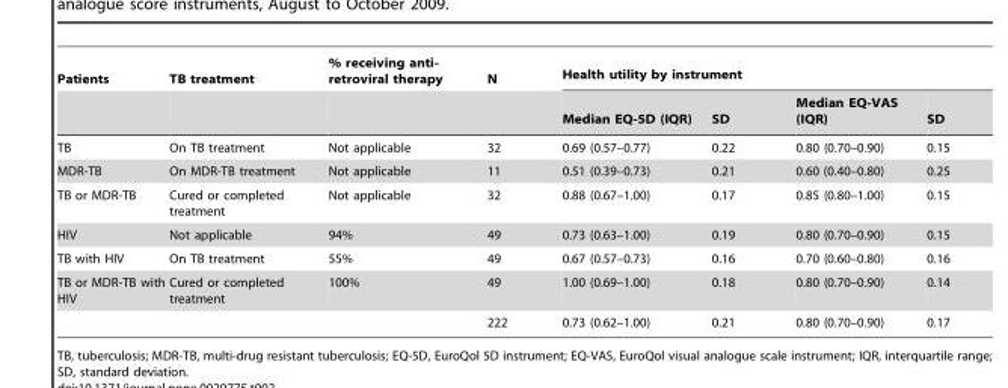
<table><thead><tr><td rowspan="2">Patients</td><td rowspan="2">TB treatment</td><td rowspan="2">% receiving anti- retroviral therapy</td><td rowspan="2">N</td><td colspan="4">Health utility by instrument</td></tr><tr><td>Median EQ-5D (IQR)</td><td>SD</td><td>Median EQ-VAS (IQR)</td><td>SD</td></tr></thead><tbody><tr><td>TB</td><td>On TB treatment</td><td>Not applicable</td><td>32</td><td>0.69 (0.57–0.77)</td><td>0.22</td><td>0.80 (0.70–0.90)</td><td>0.15</td></tr><tr><td>MDR-TB</td><td>On MDR-TB treatment</td><td>Not applicable</td><td>11</td><td>0.51 (0.39–0.73)</td><td>0.21</td><td>0.60 (0.40–0.80)</td><td>0.25</td></tr><tr><td>TB or MDR-TB</td><td>Cured or completed treatment</td><td>Not applicable</td><td>32</td><td>0.88 (0.67–1.00)</td><td>0.17</td><td>0.85 (0.80–1.00)</td><td>0.15</td></tr><tr><td>HIV</td><td>Not applicable</td><td>94%</td><td>49</td><td>0.73 (0.63–1.00)</td><td>0.19</td><td>0.80 (0.70–0.90)</td><td>0.15</td></tr><tr><td>TB with HIV</td><td>On TB treatment</td><td>55%</td><td>49</td><td>0.67 (0.57–0.73)</td><td>0.16</td><td>0.70 (0.60–0.80)</td><td>0.16</td></tr><tr><td rowspan="2">TB or MDR-TB with HIV</td><td>Cured or completed treatment</td><td>100%</td><td>49</td><td>1.00 (0.69–1.00)</td><td>0.18</td><td>0.80 (0.70–0.90)</td><td>0.14</td></tr><tr><td></td><td></td><td>222</td><td>0.73 (0.62–1.00)</td><td>0.21</td><td>0.80 (0.70–0.90)</td><td>0.17</td></tr></tbody></table>